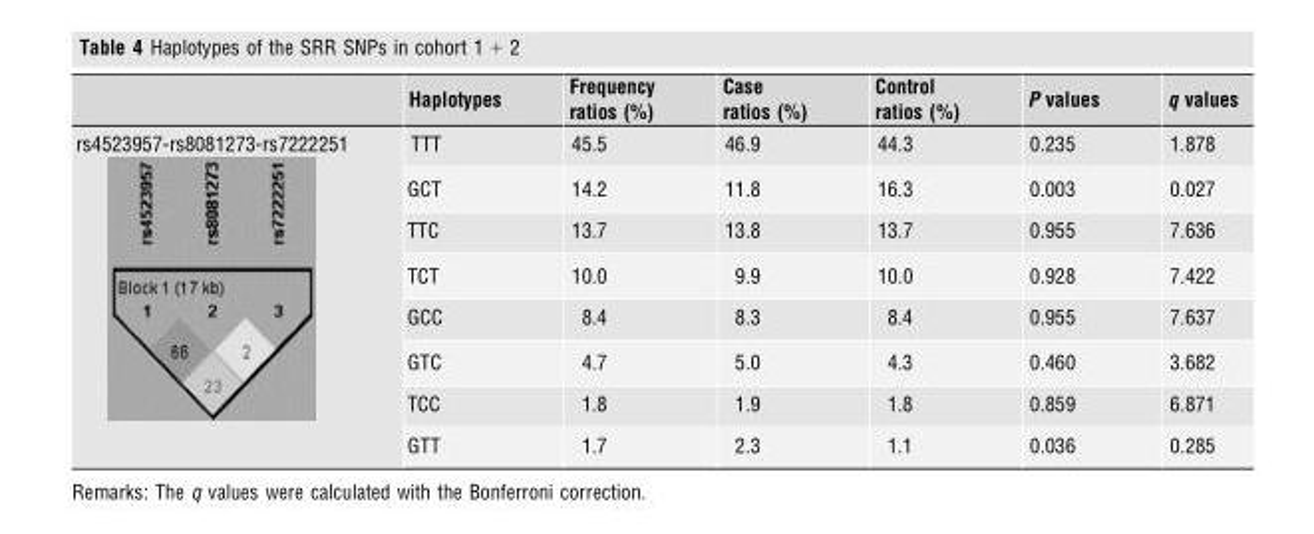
<table><thead><tr><td></td><td>Haplotypes</td><td>Frequency ratios (%)</td><td>Case ratios (%)</td><td>Control ratios (%)</td><td>P values</td><td>q values</td></tr></thead><tbody><tr><td rowspan="8">rs4523957-rs8081273-rs7222251</td><td>TTT</td><td>45.5</td><td>46.9</td><td>44.3</td><td>0.235</td><td>1.878</td></tr><tr><td>GCT</td><td>14.2</td><td>11.8</td><td>16.3</td><td>0.003</td><td>0.027</td></tr><tr><td>TTC</td><td>13.7</td><td>13.8</td><td>13.7</td><td>0.955</td><td>7.636</td></tr><tr><td>TCT</td><td>10.0</td><td>9.9</td><td>10.0</td><td>0.928</td><td>7.422</td></tr><tr><td>GCC</td><td>8.4</td><td>8.3</td><td>8.4</td><td>0.955</td><td>7.637</td></tr><tr><td>GTC</td><td>4.7</td><td>5.0</td><td>4.3</td><td>0.460</td><td>3.682</td></tr><tr><td>TCC</td><td>1.8</td><td>1.9</td><td>1.8</td><td>0.859</td><td>6.871</td></tr><tr><td>GTT</td><td>1.7</td><td>2.3</td><td>1.1</td><td>0.036</td><td>0.285</td></tr></tbody></table>